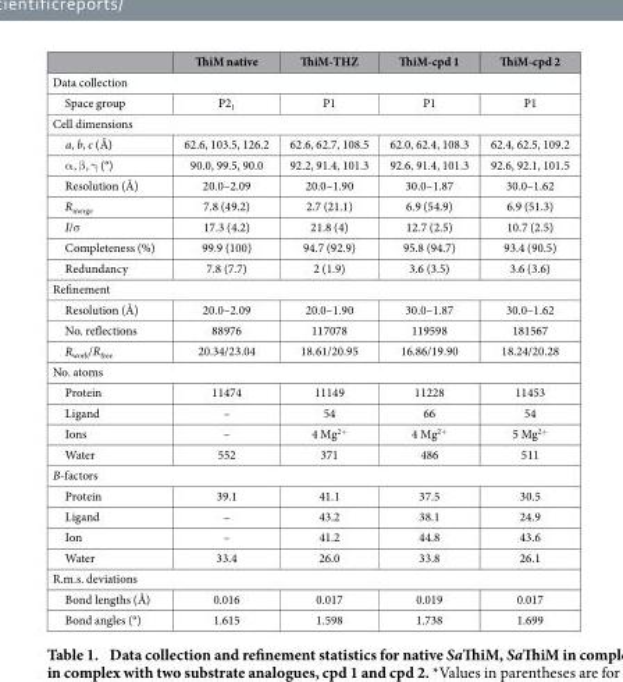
<table><thead><tr><td></td><td>ThiM native</td><td>ThiM-THZ</td><td>ThiM-cpd 1</td><td>ThiM-cpd 2</td></tr></thead><tbody><tr><td colspan="5">Data collection</td></tr><tr><td>Space group</td><td>P2<sub>1</sub></td><td>P1</td><td>P1</td><td>P1</td></tr><tr><td colspan="5">Cell dimensions</td></tr><tr><td>a, b, c (Å)</td><td>62.6, 103.5, 126.2</td><td>62.6, 62.7, 108.5</td><td>62.0, 62.4, 108.3</td><td>62.4, 62.5, 109.2</td></tr><tr><td>α , β , γ (°)</td><td>90.0, 99.5, 90.0</td><td>92.2, 91.4, 101.3</td><td>92.6, 91.4, 101.3</td><td>92.6, 92.1, 101.5</td></tr><tr><td>Resolution (Å)</td><td>20.0–2.09</td><td>20.0–1.90</td><td>30.0–1.87</td><td>30.0–1.62</td></tr><tr><td>R<sub>merge</sub></td><td>7.8 (49.2)</td><td>2.7 (21.1)</td><td>6.9 (54.9)</td><td>6.9 (51.3)</td></tr><tr><td>I/σ</td><td>17.3 (4.2)</td><td>21.8 (4)</td><td>12.7 (2.5)</td><td>10.7 (2.5)</td></tr><tr><td>Completeness (%)</td><td>99.9 (100)</td><td>94.7 (92.9)</td><td>95.8 (94.7)</td><td>93.4 (90.5)</td></tr><tr><td>Redundancy</td><td>7.8 (7.7)</td><td>2 (1.9)</td><td>3.6 (3.5)</td><td>3.6 (3.6)</td></tr><tr><td colspan="5">Refinement</td></tr><tr><td>Resolution (Å)</td><td>20.0–2.09</td><td>20.0–1.90</td><td>30.0–1.87</td><td>30.0–1.62</td></tr><tr><td>No. reflections</td><td>88976</td><td>117078</td><td>119598</td><td>181567</td></tr><tr><td>R<sub>work</sub>/R<sub>free</sub></td><td>20.34/23.04</td><td>18.61/20.95</td><td>16.86/19.90</td><td>18.24/20.28</td></tr><tr><td colspan="5">No. atoms</td></tr><tr><td>Protein</td><td>11474</td><td>11149</td><td>11228</td><td>11453</td></tr><tr><td>Ligand</td><td>–</td><td>54</td><td>66</td><td>54</td></tr><tr><td>Ions</td><td>–</td><td>4 Mg<sup>2+</sup></td><td>4 Mg<sup>2+</sup></td><td>5 Mg<sup>2+</sup></td></tr><tr><td>Water</td><td>552</td><td>371</td><td>486</td><td>511</td></tr><tr><td colspan="5">B-factors</td></tr><tr><td>Protein</td><td>39.1</td><td>41.1</td><td>37.5</td><td>30.5</td></tr><tr><td>Ligand</td><td>–</td><td>43.2</td><td>38.1</td><td>24.9</td></tr><tr><td>Ion</td><td>–</td><td>41.2</td><td>44.8</td><td>43.6</td></tr><tr><td>Water</td><td>33.4</td><td>26.0</td><td>33.8</td><td>26.1</td></tr><tr><td colspan="5">R.m.s. deviations</td></tr><tr><td>Bond lengths (Å)</td><td>0.016</td><td>0.017</td><td>0.019</td><td>0.017</td></tr><tr><td>Bond angles (°)</td><td>1.615</td><td>1.598</td><td>1.738</td><td>1.699</td></tr></tbody></table>